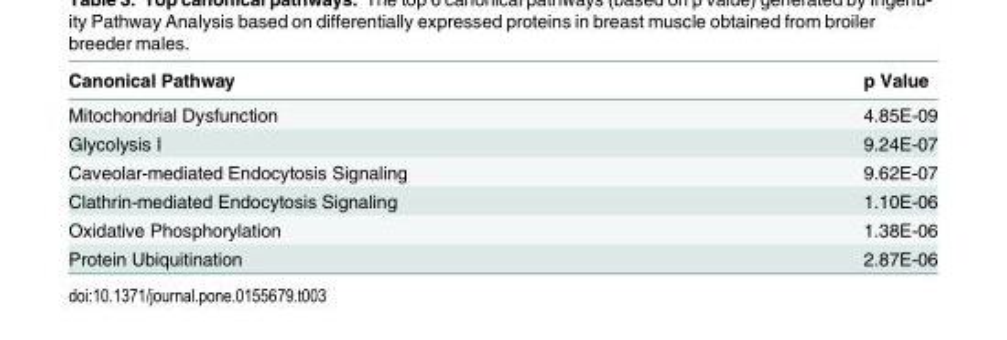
<table><thead><tr><td>Canonical Pathway</td><td>p Value</td></tr></thead><tbody><tr><td>Mitochondrial Dysfunction</td><td>4.85E-09</td></tr><tr><td>Glycolysis I</td><td>9.24E-07</td></tr><tr><td>Caveolar-mediated Endocytosis Signaling</td><td>9.62E-07</td></tr><tr><td>Clathrin-mediated Endocytosis Signaling</td><td>1.10E-06</td></tr><tr><td>Oxidative Phosphorylation</td><td>1.38E-06</td></tr><tr><td>Protein Ubiquitination</td><td>2.87E-06</td></tr></tbody></table>